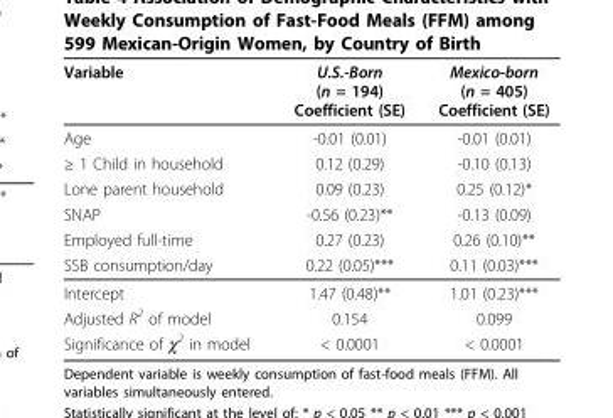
<table><thead><tr><td>Variable</td><td>U.S.-Born (n = 194) Coefficient (SE)</td><td>Mexico-born (n = 405) Coefficient (SE)</td></tr></thead><tbody><tr><td>Age</td><td>-0.01 (0.01)</td><td>-0.01 (0.01)</td></tr><tr><td>≥ 1 Child in household</td><td>0.12 (0.29)</td><td>-0.10 (0.13)</td></tr><tr><td>Lone parent household</td><td>0.09 (0.23)</td><td>0.25 (0.12)*</td></tr><tr><td>SNAP</td><td>-0.56 (0.23)**</td><td>-0.13 (0.09)</td></tr><tr><td>Employed full-time</td><td>0.27 (0.23)</td><td>0.26 (0.10)**</td></tr><tr><td>SSB consumption/day</td><td>0.22 (0.05)***</td><td>0.11 (0.03)***</td></tr><tr><td>Intercept</td><td>1.47 (0.48)**</td><td>1.01 (0.23)***</td></tr><tr><td>Adjusted R<sup>2</sup> of model</td><td>0.154</td><td>0.099</td></tr><tr><td>Significance of χ<sup>2</sup> in model</td><td>&lt; 0.0001</td><td>&lt; 0.0001</td></tr></tbody></table>